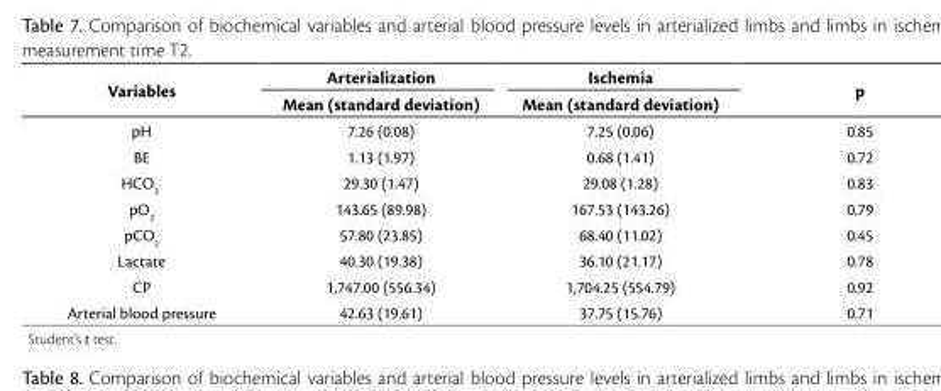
<table><thead><tr><td rowspan="2">Variables</td><td rowspan="2">Arterialization Mean (standard deviation)</td><td rowspan="2">Ischemia Mean (standard deviation)</td><td rowspan="2">p</td></tr><tr></tr></thead><tbody><tr><td>pH</td><td>7.26 (0.08)</td><td>7.25 (0.06)</td><td>0.85</td></tr><tr><td>BE</td><td>1.13 (1.97)</td><td>0.68 (1.41)</td><td>0.72</td></tr><tr><td>HCO3 -</td><td>29.30 (1.47)</td><td>29.08 (1.28)</td><td>0.83</td></tr><tr><td>pO2</td><td>143.65 (89.98)</td><td>167.53 (143.26)</td><td>0.79</td></tr><tr><td>pCO2</td><td>57.80 (23.85)</td><td>68.40 (11.02)</td><td>0.45</td></tr><tr><td>Lactate</td><td>40.30 (19.38)</td><td>36.10 (21.17)</td><td>0.78</td></tr><tr><td>CP</td><td>1,747.00 (556.34)</td><td>1,704.25 (554.79)</td><td>0.92</td></tr><tr><td>Arterial blood pressure</td><td>42.63 (19.61)</td><td>37.75 (15.76)</td><td>0.71</td></tr></tbody></table>